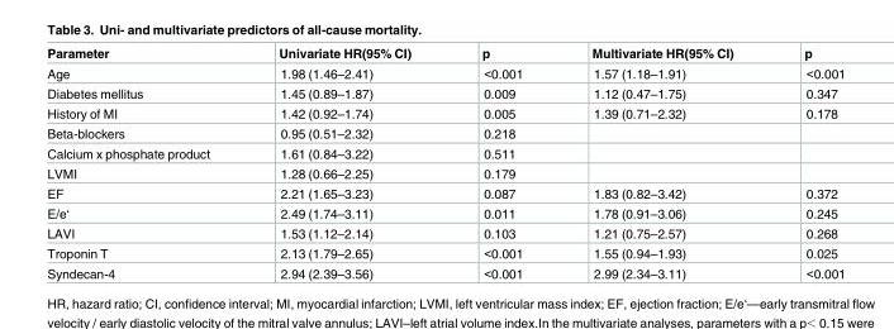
<table><thead><tr><td>Parameter</td><td>Univariate HR(95% CI)</td><td>p</td><td>Multivariate HR(95% CI)</td><td>p</td></tr></thead><tbody><tr><td>Age</td><td>1.98 (1.46–2.41)</td><td>&lt;0.001</td><td>1.57 (1.18–1.91)</td><td>&lt;0.001</td></tr><tr><td>Diabetes mellitus</td><td>1.45 (0.89–1.87)</td><td>0.009</td><td>1.12 (0.47–1.75)</td><td>0.347</td></tr><tr><td>History of MI</td><td>1.42 (0.92–1.74)</td><td>0.005</td><td>1.39 (0.71–2.32)</td><td>0.178</td></tr><tr><td>Beta-blockers</td><td>0.95 (0.51–2.32)</td><td>0.218</td><td></td><td></td></tr><tr><td>Calcium x phosphate product</td><td>1.61 (0.84–3.22)</td><td>0.511</td><td></td><td></td></tr><tr><td>LVMI</td><td>1.28 (0.66–2.25)</td><td>0.179</td><td></td><td></td></tr><tr><td>EF</td><td>2.21 (1.65–3.23)</td><td>0.087</td><td>1.83 (0.82–3.42)</td><td>0.372</td></tr><tr><td>E/e‘</td><td>2.49 (1.74–3.11)</td><td>0.011</td><td>1.78 (0.91–3.06)</td><td>0.245</td></tr><tr><td>LAVI</td><td>1.53 (1.12–2.14)</td><td>0.103</td><td>1.21 (0.75–2.57)</td><td>0.268</td></tr><tr><td>Troponin T</td><td>2.13 (1.79–2.65)</td><td>&lt;0.001</td><td>1.55 (0.94–1.93)</td><td>0.025</td></tr><tr><td>Syndecan-4</td><td>2.94 (2.39–3.56)</td><td>&lt;0.001</td><td>2.99 (2.34–3.11)</td><td>&lt;0.001</td></tr></tbody></table>